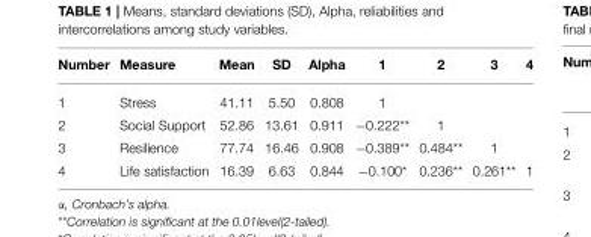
<table><thead><tr><td>Number</td><td>Measure</td><td>Mean</td><td>SD</td><td>Alpha</td><td>1</td><td>2</td><td>3</td><td>4</td></tr></thead><tbody><tr><td>1</td><td>Stress</td><td>41.11</td><td>5.50</td><td>0.808</td><td>1</td><td></td><td></td><td></td></tr><tr><td>2</td><td>Social Support</td><td>52.86</td><td>13.61</td><td>0.911</td><td>−0.222**</td><td>1</td><td></td><td></td></tr><tr><td>3</td><td>Resilience</td><td>77.74</td><td>16.46</td><td>0.908</td><td>−0.389**</td><td>0.484**</td><td>1</td><td></td></tr><tr><td>4</td><td>Life satisfaction</td><td>16.39</td><td>6.63</td><td>0.844</td><td>−0.100*</td><td>0.236**</td><td>0.261**</td><td>1</td></tr></tbody></table>